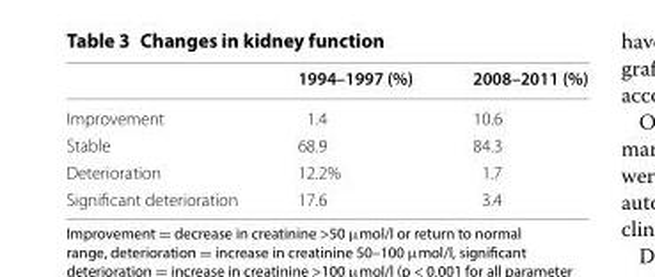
<table><thead><tr><td></td><td>1994–1997 (%)</td><td>2008–2011 (%)</td></tr></thead><tbody><tr><td>Improvement</td><td>1.4</td><td>10.6</td></tr><tr><td>Stable</td><td>68.9</td><td>84.3</td></tr><tr><td>Deterioration</td><td>12.2%</td><td>1.7</td></tr><tr><td>Significant deterioration</td><td>17.6</td><td>3.4</td></tr></tbody></table>